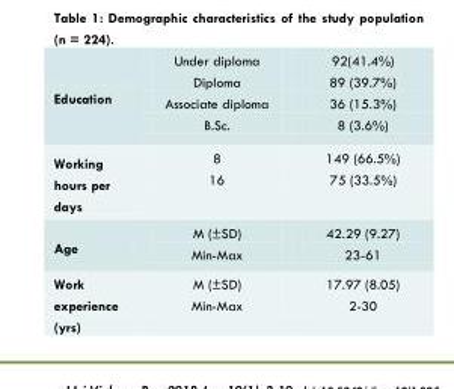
<table><tbody><tr><td rowspan="4">Education</td><td>Under diploma</td><td>92(41.4%)</td></tr><tr><td>Diploma</td><td>89 (39.7%)</td></tr><tr><td>Associate diploma</td><td>36 (15.3%)</td></tr><tr><td>B.Sc.</td><td>8 (3.6%)</td></tr><tr><td rowspan="2">Working hours per days</td><td>8</td><td>149 (66.5%)</td></tr><tr><td>16</td><td>75 (33.5%)</td></tr><tr><td rowspan="2">Age</td><td>M (±SD)</td><td>42.29 (9.27)</td></tr><tr><td>Min-Max</td><td>23-61</td></tr><tr><td rowspan="2">Work experience (yrs)</td><td>M (±SD)</td><td>17.97 (8.05)</td></tr><tr><td>Min-Max</td><td>2-30</td></tr></tbody></table>